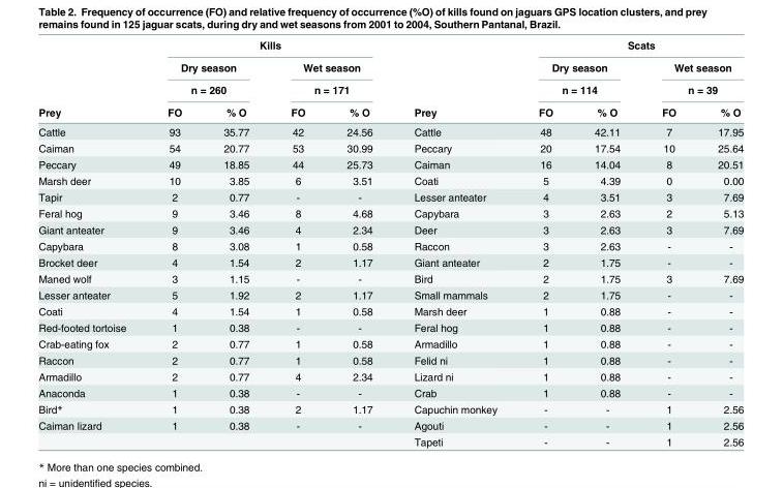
<table><thead><tr><td rowspan="4">Prey</td><td colspan="4">Kills</td><td rowspan="4">Prey</td><td colspan="4">Scats</td></tr><tr><td rowspan="2" colspan="2">Dry season n = 260</td><td rowspan="2" colspan="2">Wet season n = 171</td><td rowspan="2" colspan="2">Dry season n = 114</td><td rowspan="2" colspan="2">Wet season n = 39</td></tr><tr></tr><tr><td>FO</td><td>% O</td><td>FO</td><td>% O</td><td>FO</td><td>% O</td><td>FO</td><td>% O</td></tr></thead><tbody><tr><td>Cattle</td><td>93</td><td>35.77</td><td>42</td><td>24.56</td><td>Cattle</td><td>48</td><td>42.11</td><td>7</td><td>17.95</td></tr><tr><td>Caiman</td><td>54</td><td>20.77</td><td>53</td><td>30.99</td><td>Peccary</td><td>20</td><td>17.54</td><td>10</td><td>25.64</td></tr><tr><td>Peccary</td><td>49</td><td>18.85</td><td>44</td><td>25.73</td><td>Caiman</td><td>16</td><td>14.04</td><td>8</td><td>20.51</td></tr><tr><td>Marsh deer</td><td>10</td><td>3.85</td><td>6</td><td>3.51</td><td>Coati</td><td>5</td><td>4.39</td><td>0</td><td>0.00</td></tr><tr><td>Tapir</td><td>2</td><td>0.77</td><td>-</td><td>-</td><td>Lesser anteater</td><td>4</td><td>3.51</td><td>3</td><td>7.69</td></tr><tr><td>Feral hog</td><td>9</td><td>3.46</td><td>8</td><td>4.68</td><td>Capybara</td><td>3</td><td>2.63</td><td>2</td><td>5.13</td></tr><tr><td>Giant anteater</td><td>9</td><td>3.46</td><td>4</td><td>2.34</td><td>Deer</td><td>3</td><td>2.63</td><td>3</td><td>7.69</td></tr><tr><td>Capybara</td><td>8</td><td>3.08</td><td>1</td><td>0.58</td><td>Raccon</td><td>3</td><td>2.63</td><td>-</td><td>-</td></tr><tr><td>Brocket deer</td><td>4</td><td>1.54</td><td>2</td><td>1.17</td><td>Giant anteater</td><td>2</td><td>1.75</td><td>-</td><td>-</td></tr><tr><td>Maned wolf</td><td>3</td><td>1.15</td><td>-</td><td>-</td><td>Bird</td><td>2</td><td>1.75</td><td>3</td><td>7.69</td></tr><tr><td>Lesser anteater</td><td>5</td><td>1.92</td><td>2</td><td>1.17</td><td>Small mammals</td><td>2</td><td>1.75</td><td>-</td><td>-</td></tr><tr><td>Coati</td><td>4</td><td>1.54</td><td>1</td><td>0.58</td><td>Marsh deer</td><td>1</td><td>0.88</td><td>-</td><td>-</td></tr><tr><td>Red-footed tortoise</td><td>1</td><td>0.38</td><td>-</td><td>-</td><td>Feral hog</td><td>1</td><td>0.88</td><td>-</td><td>-</td></tr><tr><td>Crab-eating fox</td><td>2</td><td>0.77</td><td>1</td><td>0.58</td><td>Armadillo</td><td>1</td><td>0.88</td><td>-</td><td>-</td></tr><tr><td>Raccon</td><td>2</td><td>0.77</td><td>1</td><td>0.58</td><td>Felid ni</td><td>1</td><td>0.88</td><td>-</td><td>-</td></tr><tr><td>Armadillo</td><td>2</td><td>0.77</td><td>4</td><td>2.34</td><td>Lizard ni</td><td>1</td><td>0.88</td><td>-</td><td>-</td></tr><tr><td>Anaconda</td><td>1</td><td>0.38</td><td>-</td><td>-</td><td>Crab</td><td>1</td><td>0.88</td><td>-</td><td>-</td></tr><tr><td>Bird*</td><td>1</td><td>0.38</td><td>2</td><td>1.17</td><td>Capuchin monkey</td><td>-</td><td>-</td><td>1</td><td>2.56</td></tr><tr><td rowspan="2">Caiman lizard</td><td>1</td><td>0.38</td><td>-</td><td>-</td><td>Agouti</td><td>-</td><td>-</td><td>1</td><td>2.56</td></tr><tr><td></td><td></td><td></td><td></td><td>Tapeti</td><td>-</td><td>-</td><td>1</td><td>2.56</td></tr></tbody></table>